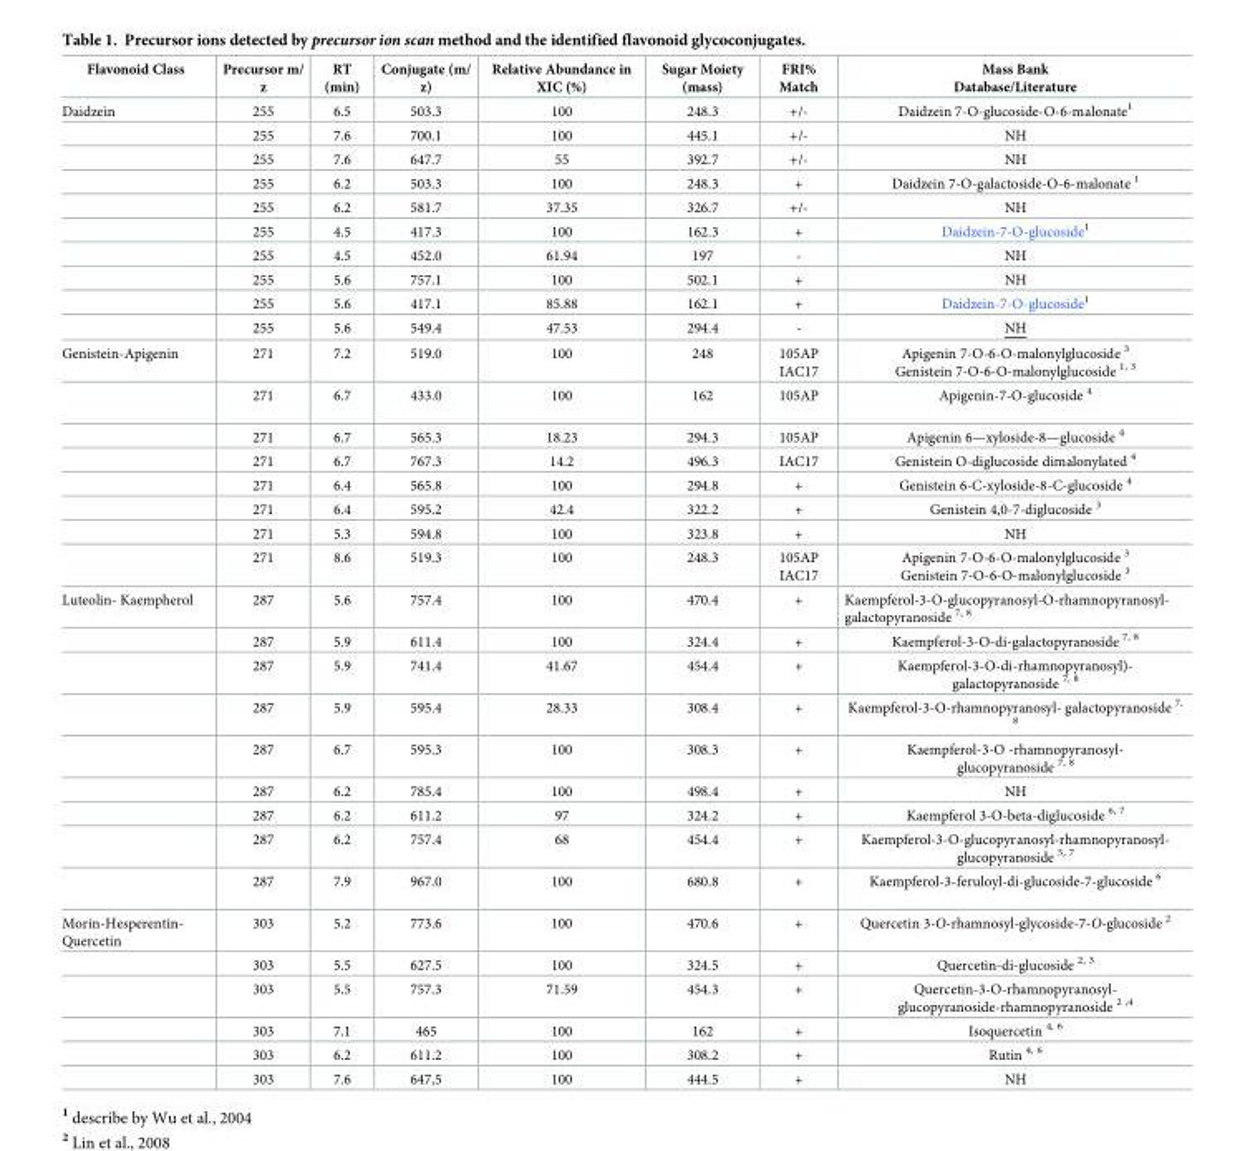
<table><thead><tr><td>Flavonoid Class</td><td>Precursor m/ z</td><td>RT (min)</td><td>Conjugate (m/ z)</td><td>Relative Abundance in XIC (%)</td><td>Sugar Moiety (mass)</td><td>FRI% Match</td><td>Mass Bank Database/Literature</td></tr></thead><tbody><tr><td rowspan="10">Daidzein</td><td>255</td><td>6.5</td><td>503.3</td><td>100</td><td>248.3</td><td>+/-</td><td>Daidzein 7-O-glucoside-O-6-malonate<sup>1</sup></td></tr><tr><td>255</td><td>7.6</td><td>700.1</td><td>100</td><td>445.1</td><td>+/-</td><td>NH</td></tr><tr><td>255</td><td>7.6</td><td>647.7</td><td>55</td><td>392.7</td><td>+/-</td><td>NH</td></tr><tr><td>255</td><td>6.2</td><td>503.3</td><td>100</td><td>248.3</td><td>+</td><td>Daidzein 7-O-galactoside-O-6-malonate <sup>1</sup></td></tr><tr><td>255</td><td>6.2</td><td>581.7</td><td>37.35</td><td>326.7</td><td>+/-</td><td>NH</td></tr><tr><td>255</td><td>4.5</td><td>417.3</td><td>100</td><td>162.3</td><td>+</td><td>Daidzein-7-O-glucoside<sup>1</sup></td></tr><tr><td>255</td><td>4.5</td><td>452.0</td><td>61.94</td><td>197</td><td>-</td><td>NH</td></tr><tr><td>255</td><td>5.6</td><td>757.1</td><td>100</td><td>502.1</td><td>+</td><td>NH</td></tr><tr><td>255</td><td>5.6</td><td>417.1</td><td>85.88</td><td>162.1</td><td>+</td><td>Daidzein-7-O-glucoside<sup>1</sup></td></tr><tr><td>255</td><td>5.6</td><td>549.4</td><td>47.53</td><td>294.4</td><td>-</td><td>NH</td></tr><tr><td rowspan="8">Genistein-Apigenin</td><td>271</td><td>7.2</td><td>519.0</td><td>100</td><td>248</td><td>105AP IAC17</td><td>Apigenin 7-O-6-O-malonylglucoside <sup>3</sup> Genistein 7-O-6-O-malonylglucoside <sup>1, 3</sup></td></tr><tr><td>271</td><td>6.7</td><td>433.0</td><td>100</td><td>162</td><td>105AP</td><td>Apigenin-7-O-glucoside <sup>4</sup></td></tr><tr><td>271</td><td>6.7</td><td>565.3</td><td>18.23</td><td>294.3</td><td>105AP</td><td>Apigenin 6—xyloside-8—glucoside <sup>4</sup></td></tr><tr><td>271</td><td>6.7</td><td>767.3</td><td>14.2</td><td>496.3</td><td>IAC17</td><td>Genistein O-diglucoside dimalonylated <sup>4</sup></td></tr><tr><td>271</td><td>6.4</td><td>565.8</td><td>100</td><td>294.8</td><td>+</td><td>Genistein 6-C-xyloside-8-C-glucoside <sup>4</sup></td></tr><tr><td>271</td><td>6.4</td><td>595.2</td><td>42.4</td><td>322.2</td><td>+</td><td>Genistein 4,0-7-diglucoside <sup>3</sup></td></tr><tr><td>271</td><td>5.3</td><td>594.8</td><td>100</td><td>323.8</td><td>+</td><td>NH</td></tr><tr><td>271</td><td>8.6</td><td>519.3</td><td>100</td><td>248.3</td><td>105AP IAC17</td><td>Apigenin 7-O-6-O-malonylglucoside <sup>3</sup> Genistein 7-O-6-O-malonylglucoside <sup>3</sup></td></tr><tr><td rowspan="9">Luteolin- Kaempherol</td><td>287</td><td>5.6</td><td>757.4</td><td>100</td><td>470.4</td><td>+</td><td>Kaempferol-3-O-glucopyranosyl-O-rhamnopyranosyl- galactopyranoside <sup>7, 8</sup></td></tr><tr><td>287</td><td>5.9</td><td>611.4</td><td>100</td><td>324.4</td><td>+</td><td>Kaempferol-3-O-di-galactopyranoside <sup>7, 8</sup></td></tr><tr><td>287</td><td>5.9</td><td>741.4</td><td>41.67</td><td>454.4</td><td>+</td><td>Kaempferol-3-O-di-rhamnopyranosyl)- galactopyranoside <sup>7, 8</sup></td></tr><tr><td>287</td><td>5.9</td><td>595.4</td><td>28.33</td><td>308.4</td><td>+</td><td>Kaempferol-3-O-rhamnopyranosyl- galactopyranoside <sup>7, 8</sup></td></tr><tr><td>287</td><td>6.7</td><td>595.3</td><td>100</td><td>308.3</td><td>+</td><td>Kaempferol-3-O -rhamnopyranosyl- glucopyranoside <sup>7, 8</sup></td></tr><tr><td>287</td><td>6.2</td><td>785.4</td><td>100</td><td>498.4</td><td>+</td><td>NH</td></tr><tr><td>287</td><td>6.2</td><td>611.2</td><td>97</td><td>324.2</td><td>+</td><td>Kaempferol 3-O-beta-diglucoside <sup>6, 7</sup></td></tr><tr><td>287</td><td>6.2</td><td>757.4</td><td>68</td><td>454.4</td><td>+</td><td>Kaempferol-3-O-glucopyranosyl-rhamnopyranosyl- glucopyranoside <sup>5, 7</sup></td></tr><tr><td>287</td><td>7.9</td><td>967.0</td><td>100</td><td>680.8</td><td>+</td><td>Kaempferol-3-feruloyl-di-glucoside-7-glucoside <sup>6</sup></td></tr><tr><td rowspan="6">Morin-Hesperentin- Quercetin</td><td>303</td><td>5.2</td><td>773.6</td><td>100</td><td>470.6</td><td>+</td><td>Quercetin 3-O-rhamnosyl-glycoside-7-O-glucoside <sup>2</sup></td></tr><tr><td>303</td><td>5.5</td><td>627.5</td><td>100</td><td>324.5</td><td>+</td><td>Quercetin-di-glucoside <sup>2, 3</sup></td></tr><tr><td>303</td><td>5.5</td><td>757.3</td><td>71.59</td><td>454.3</td><td>+</td><td>Quercetin-3-O-rhamnopyranosyl- glucopyranoside-rhamnopyranoside <sup>2 ,4</sup></td></tr><tr><td>303</td><td>7.1</td><td>465</td><td>100</td><td>162</td><td>+</td><td>Isoquercetin <sup>4, 6</sup></td></tr><tr><td>303</td><td>6.2</td><td>611.2</td><td>100</td><td>308.2</td><td>+</td><td>Rutin <sup>4, 6</sup></td></tr><tr><td>303</td><td>7.6</td><td>647,5</td><td>100</td><td>444.5</td><td>+</td><td>NH</td></tr></tbody></table>